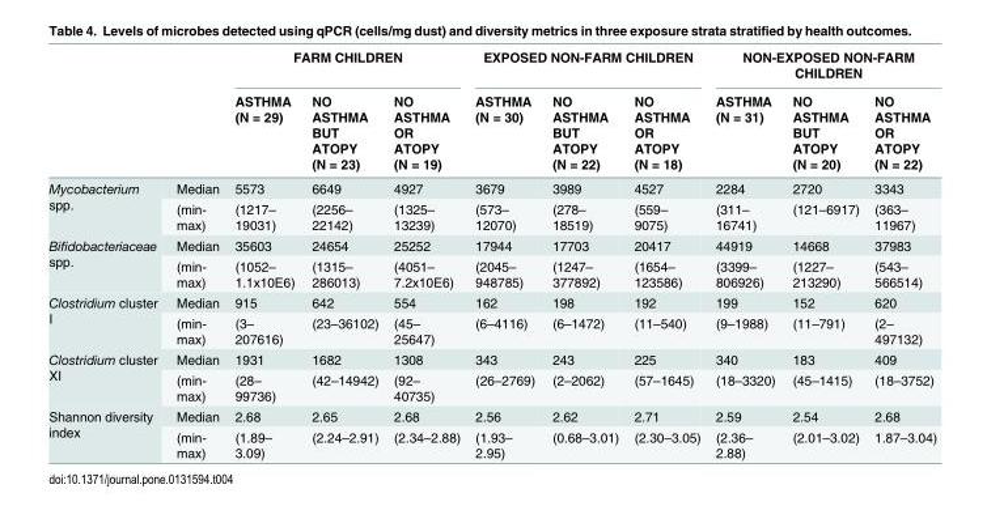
<table><thead><tr><td rowspan="2"></td><td rowspan="2"></td><td colspan="3">FARM CHILDREN</td><td colspan="3">EXPOSED NON-FARM CHILDREN</td><td colspan="3">NON-EXPOSED NON-FARM CHILDREN</td></tr><tr><td>ASTHMA (N = 29)</td><td>NO ASTHMA BUT ATOPY (N = 23)</td><td>NO ASTHMA OR ATOPY (N = 19)</td><td>ASTHMA (N = 30)</td><td>NO ASTHMA BUT ATOPY (N = 22)</td><td>NO ASTHMA OR ATOPY (N = 18)</td><td>ASTHMA (N = 31)</td><td>NO ASTHMA BUT ATOPY (N = 20)</td><td>NO ASTHMA OR ATOPY (N = 22)</td></tr></thead><tbody><tr><td rowspan="2">Mycobacterium spp.</td><td>Median</td><td>5573</td><td>6649</td><td>4927</td><td>3679</td><td>3989</td><td>4527</td><td>2284</td><td>2720</td><td>3343</td></tr><tr><td>(min- max)</td><td>(1217– 19031)</td><td>(2256– 22142)</td><td>(1325– 13239)</td><td>(573– 12070)</td><td>(278– 18519)</td><td>(559– 9075)</td><td>(311– 16741)</td><td>(121–6917)</td><td>(363– 11967)</td></tr><tr><td rowspan="2">Bifidobacteriaceae spp.</td><td>Median</td><td>35603</td><td>24654</td><td>25252</td><td>17944</td><td>17703</td><td>20417</td><td>44919</td><td>14668</td><td>37983</td></tr><tr><td>(min- max)</td><td>(1052– 1.1x10E6)</td><td>(1315– 286013)</td><td>(4051– 7.2x10E6)</td><td>(2045– 948785)</td><td>(1247– 377892)</td><td>(1654– 123586)</td><td>(3399– 806926)</td><td>(1227– 213290)</td><td>(543– 566514)</td></tr><tr><td rowspan="2">Clostridium cluster I</td><td>Median</td><td>915</td><td>642</td><td>554</td><td>162</td><td>198</td><td>192</td><td>199</td><td>152</td><td>620</td></tr><tr><td>(min- max)</td><td>(3– 207616)</td><td>(23–36102)</td><td>(45– 25647)</td><td>(6–4116)</td><td>(6–1472)</td><td>(11–540)</td><td>(9–1988)</td><td>(11–791)</td><td>(2– 497132)</td></tr><tr><td rowspan="2">Clostridium cluster XI</td><td>Median</td><td>1931</td><td>1682</td><td>1308</td><td>343</td><td>243</td><td>225</td><td>340</td><td>183</td><td>409</td></tr><tr><td>(min- max)</td><td>(28– 99736)</td><td>(42–14942)</td><td>(92– 40735)</td><td>(26–2769)</td><td>(2–2062)</td><td>(57–1645)</td><td>(18–3320)</td><td>(45–1415)</td><td>(18–3752)</td></tr><tr><td rowspan="2">Shannon diversity index</td><td>Median</td><td>2.68</td><td>2.65</td><td>2.68</td><td>2.56</td><td>2.62</td><td>2.71</td><td>2.59</td><td>2.54</td><td>2.68</td></tr><tr><td>(min- max)</td><td>(1.89– 3.09)</td><td>(2.24–2.91)</td><td>(2.34–2.88)</td><td>(1.93– 2.95)</td><td>(0.68–3.01)</td><td>(2.30–3.05)</td><td>(2.36– 2.88)</td><td>(2.01–3.02)</td><td>1.87–3.04)</td></tr></tbody></table>